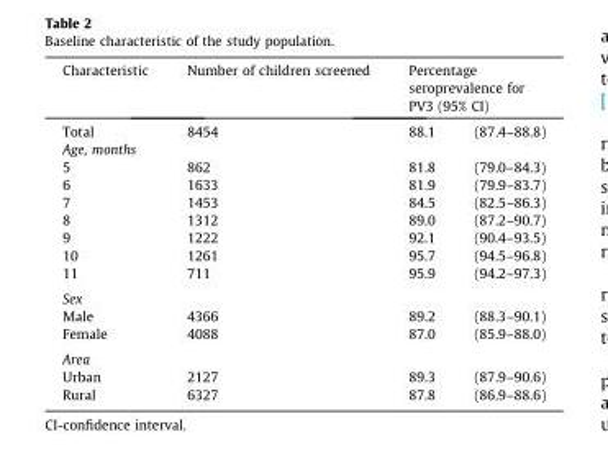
<table><thead><tr><td rowspan="2">Characteristic Total</td><td rowspan="2">Number of children screened 8454</td><td colspan="2">Percentage seroprevalence for PV3 (95% CI)</td></tr><tr><td>88.1</td><td>(87.4–88.8)</td></tr></thead><tbody><tr><td colspan="4">Age, months</td></tr><tr><td>5</td><td>862</td><td>81.8</td><td>(79.0–84.3)</td></tr><tr><td>6</td><td>1633</td><td>81.9</td><td>(79.9–83.7)</td></tr><tr><td>7</td><td>1453</td><td>84.5</td><td>(82.5–86.3)</td></tr><tr><td>8</td><td>1312</td><td>89.0</td><td>(87.2–90.7)</td></tr><tr><td>9</td><td>1222</td><td>92.1</td><td>(90.4–93.5)</td></tr><tr><td>10</td><td>1261</td><td>95.7</td><td>(94.5–96.8)</td></tr><tr><td>11</td><td>711</td><td>95.9</td><td>(94.2–97.3)</td></tr><tr><td colspan="4">Sex</td></tr><tr><td>Male</td><td>4366</td><td>89.2</td><td>(88.3–90.1)</td></tr><tr><td>Female</td><td>4088</td><td>87.0</td><td>(85.9–88.0)</td></tr><tr><td colspan="4">Area</td></tr><tr><td>Urban</td><td>2127</td><td>89.3</td><td>(87.9–90.6)</td></tr><tr><td>Rural</td><td>6327</td><td>87.8</td><td>(86.9–88.6)</td></tr></tbody></table>